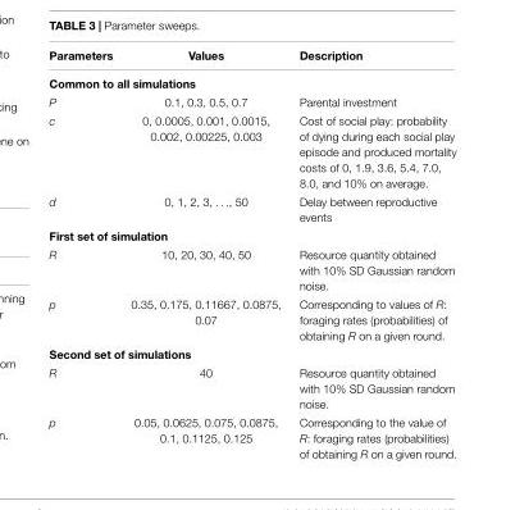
<table><thead><tr><td>Parameters</td><td>Values</td><td>Description</td></tr></thead><tbody><tr><td colspan="3">Common to all simulations</td></tr><tr><td>P</td><td>0.1, 0.3, 0.5, 0.7</td><td>Parental investment</td></tr><tr><td>c</td><td>0, 0.0005, 0.001, 0.0015, 0.002, 0.00225, 0.003</td><td>Cost of social play: probability of dying during each social play episode and produced mortality costs of 0, 1.9, 3.6, 5.4, 7.0, 8.0, and 10% on average.</td></tr><tr><td>d</td><td>0, 1, 2, 3, . . ., 50</td><td>Delay between reproductive events</td></tr><tr><td colspan="3">First set of simulation</td></tr><tr><td>R</td><td>10, 20, 30, 40, 50</td><td>Resource quantity obtained with 10% SD Gaussian random noise.</td></tr><tr><td>p</td><td>0.35, 0.175, 0.11667, 0.0875, 0.07</td><td>Corresponding to values of R: foraging rates (probabilities) of obtaining R on a given round.</td></tr><tr><td colspan="3">Second set of simulations</td></tr><tr><td>R</td><td>40</td><td>Resource quantity obtained with 10% SD Gaussian random noise.</td></tr><tr><td>p</td><td>0.05, 0.0625, 0.075, 0.0875, 0.1, 0.1125, 0.125</td><td>Corresponding to the value of R: foraging rates (probabilities) of obtaining R on a given round.</td></tr></tbody></table>